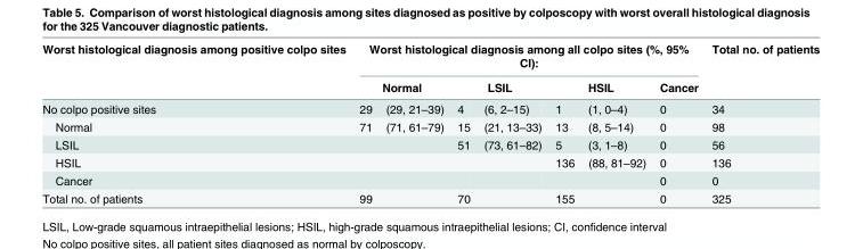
<table><thead><tr><td rowspan="3">Worst histological diagnosis among positive colpo sites No colpo positive sites</td><td colspan="7">Worst histological diagnosis among all colpo sites (%, 95% CI):</td><td rowspan="3">Total no. of patients 34</td></tr><tr><td colspan="2">Normal</td><td colspan="2">LSIL</td><td colspan="2">HSIL</td><td rowspan="2">Cancer 0</td></tr><tr><td>29</td><td>(29, 21–39)</td><td>4</td><td>(6, 2–15)</td><td>1</td><td>(1, 0–4)</td></tr></thead><tbody><tr><td>Normal</td><td>71</td><td>(71, 61–79)</td><td>15</td><td>(21, 13–33)</td><td>13</td><td>(8, 5–14)</td><td>0</td><td>98</td></tr><tr><td>LSIL</td><td></td><td></td><td>51</td><td>(73, 61–82)</td><td>5</td><td>(3, 1–8)</td><td>0</td><td>56</td></tr><tr><td>HSIL</td><td></td><td></td><td></td><td></td><td>136</td><td>(88, 81–92)</td><td>0</td><td>136</td></tr><tr><td>Cancer</td><td></td><td></td><td></td><td></td><td></td><td></td><td>0</td><td>0</td></tr><tr><td>Total no. of patients</td><td>99</td><td></td><td>70</td><td></td><td>155</td><td></td><td>0</td><td>325</td></tr></tbody></table>